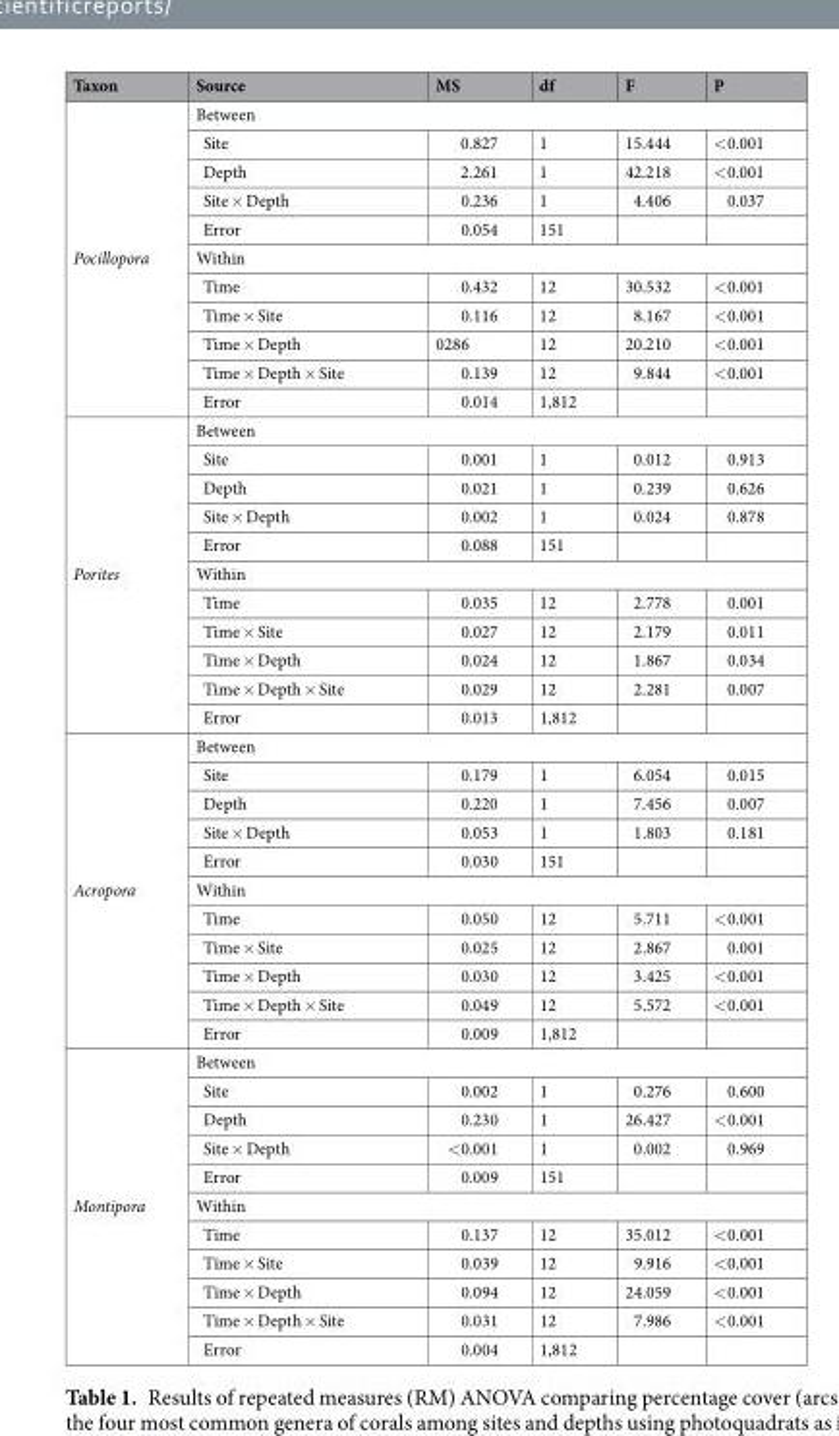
<table><thead><tr><td>Taxon</td><td>Source</td><td>MS</td><td>df</td><td>F</td><td>P</td></tr></thead><tbody><tr><td rowspan="11">Pocillopora</td><td colspan="5">Between</td></tr><tr><td>Site</td><td>0.827</td><td>1</td><td>15.444</td><td>&lt;0.001</td></tr><tr><td>Depth</td><td>2.261</td><td>1</td><td>42.218</td><td>&lt;0.001</td></tr><tr><td>Site × Depth</td><td>0.236</td><td>1</td><td>4.406</td><td>0.037</td></tr><tr><td>Error</td><td>0.054</td><td>151</td><td></td><td></td></tr><tr><td colspan="5">Within</td></tr><tr><td>Time</td><td>0.432</td><td>12</td><td>30.532</td><td>&lt;0.001</td></tr><tr><td>Time × Site</td><td>0.116</td><td>12</td><td>8.167</td><td>&lt;0.001</td></tr><tr><td>Time × Depth</td><td>0286</td><td>12</td><td>20.210</td><td>&lt;0.001</td></tr><tr><td>Time × Depth × Site</td><td>0.139</td><td>12</td><td>9.844</td><td>&lt;0.001</td></tr><tr><td>Error</td><td>0.014</td><td>1,812</td><td></td><td></td></tr><tr><td rowspan="11">Porites</td><td colspan="5">Between</td></tr><tr><td>Site</td><td>0.001</td><td>1</td><td>0.012</td><td>0.913</td></tr><tr><td>Depth</td><td>0.021</td><td>1</td><td>0.239</td><td>0.626</td></tr><tr><td>Site × Depth</td><td>0.002</td><td>1</td><td>0.024</td><td>0.878</td></tr><tr><td>Error</td><td>0.088</td><td>151</td><td></td><td></td></tr><tr><td colspan="5">Within</td></tr><tr><td>Time</td><td>0.035</td><td>12</td><td>2.778</td><td>0.001</td></tr><tr><td>Time × Site</td><td>0.027</td><td>12</td><td>2.179</td><td>0.011</td></tr><tr><td>Time × Depth</td><td>0.024</td><td>12</td><td>1.867</td><td>0.034</td></tr><tr><td>Time × Depth × Site</td><td>0.029</td><td>12</td><td>2.281</td><td>0.007</td></tr><tr><td>Error</td><td>0.013</td><td>1,812</td><td></td><td></td></tr><tr><td rowspan="11">Acropora</td><td colspan="5">Between</td></tr><tr><td>Site</td><td>0.179</td><td>1</td><td>6.054</td><td>0.015</td></tr><tr><td>Depth</td><td>0.220</td><td>1</td><td>7.456</td><td>0.007</td></tr><tr><td>Site × Depth</td><td>0.053</td><td>1</td><td>1.803</td><td>0.181</td></tr><tr><td>Error</td><td>0.030</td><td>151</td><td></td><td></td></tr><tr><td colspan="5">Within</td></tr><tr><td>Time</td><td>0.050</td><td>12</td><td>5.711</td><td>&lt;0.001</td></tr><tr><td>Time × Site</td><td>0.025</td><td>12</td><td>2.867</td><td>0.001</td></tr><tr><td>Time × Depth</td><td>0.030</td><td>12</td><td>3.425</td><td>&lt;0.001</td></tr><tr><td>Time × Depth × Site</td><td>0.049</td><td>12</td><td>5.572</td><td>&lt;0.001</td></tr><tr><td>Error</td><td>0.009</td><td>1,812</td><td></td><td></td></tr><tr><td rowspan="11">Montipora</td><td colspan="5">Between</td></tr><tr><td>Site</td><td>0.002</td><td>1</td><td>0.276</td><td>0.600</td></tr><tr><td>Depth</td><td>0.230</td><td>1</td><td>26.427</td><td>&lt;0.001</td></tr><tr><td>Site × Depth</td><td>&lt;0.001</td><td>1</td><td>0.002</td><td>0.969</td></tr><tr><td>Error</td><td>0.009</td><td>151</td><td></td><td></td></tr><tr><td colspan="5">Within</td></tr><tr><td>Time</td><td>0.137</td><td>12</td><td>35.012</td><td>&lt;0.001</td></tr><tr><td>Time × Site</td><td>0.039</td><td>12</td><td>9.916</td><td>&lt;0.001</td></tr><tr><td>Time × Depth</td><td>0.094</td><td>12</td><td>24.059</td><td>&lt;0.001</td></tr><tr><td>Time × Depth × Site</td><td>0.031</td><td>12</td><td>7.986</td><td>&lt;0.001</td></tr><tr><td>Error</td><td>0.004</td><td>1,812</td><td></td><td></td></tr></tbody></table>